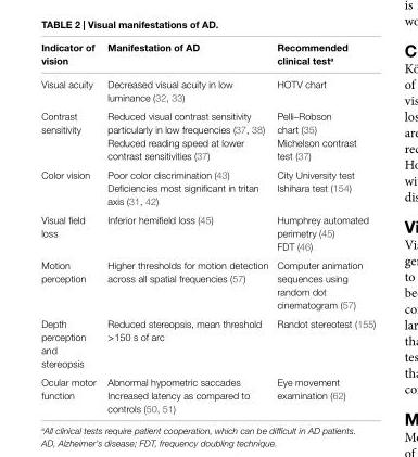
<table><thead><tr><td>indicator of vision</td><td>Manifestation of AD</td><td>Recommended clinical test<sup>a</sup></td></tr></thead><tbody><tr><td>Visual acuity</td><td>Decreased visual acuity in low luminance (32, 33)</td><td>HOTV chart</td></tr><tr><td rowspan="2">Contrast sensitivity</td><td>Reduced visual contrast sensitivity particularly in low frequencies (37, 38)</td><td>Pelli–Robson chart (35)</td></tr><tr><td>Reduced reading speed at lower contrast sensitivities (37)</td><td>Michelson contrast test (37)</td></tr><tr><td rowspan="2">Color vision</td><td>Poor color discrimination (43)</td><td>City University test</td></tr><tr><td>Deficiencies most significant in tritan axis (31, 42)</td><td>Ishihara test (154)</td></tr><tr><td rowspan="2">Visual field loss</td><td rowspan="2">Inferior hemifield loss (45)</td><td>Humphrey automated perimetry (45)</td></tr><tr><td>FDT (46)</td></tr><tr><td>Motion perception</td><td>Higher thresholds for motion detection across all spatial frequencies (57)</td><td>Computer animation sequences using random dot cinematogram (57)</td></tr><tr><td>Depth perception and stereopsis</td><td>Reduced stereopsis, mean threshold &gt;150 s of arc</td><td>Randot stereotest (155)</td></tr><tr><td rowspan="2">Ocular motor function</td><td>Abnormal hypometric saccades</td><td rowspan="2">Eye movement examination (62)</td></tr><tr><td>Increased latency as compared to controls (50, 51)</td></tr></tbody></table>